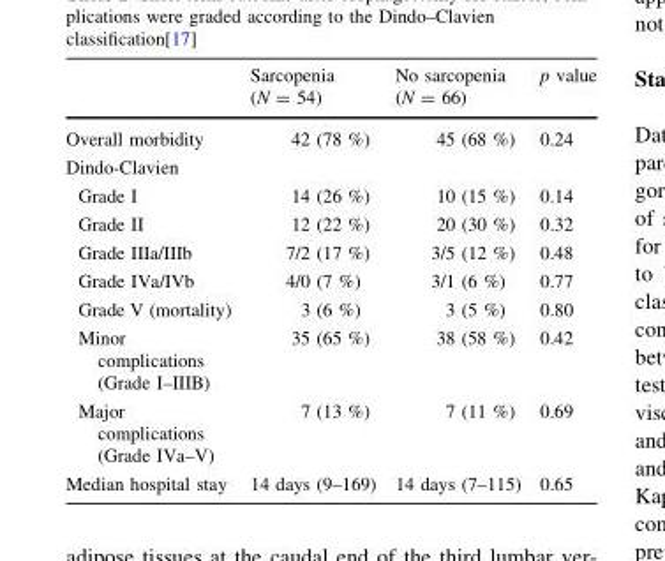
<table><thead><tr><td></td><td>Sarcopenia (N = 54)</td><td>No sarcopenia (N = 66)</td><td>p value</td></tr></thead><tbody><tr><td>Overall morbidity</td><td>42 (78 %)</td><td>45 (68 %)</td><td>0.24</td></tr><tr><td colspan="4">Dindo-Clavien</td></tr><tr><td>Grade I</td><td>14 (26 %)</td><td>10 (15 %)</td><td>0.14</td></tr><tr><td>Grade II</td><td>12 (22 %)</td><td>20 (30 %)</td><td>0.32</td></tr><tr><td>Grade IIIa/IIIb</td><td>7/2 (17 %)</td><td>3/5 (12 %)</td><td>0.48</td></tr><tr><td>Grade IVa/IVb</td><td>4/0 (7 %)</td><td>3/1 (6 %)</td><td>0.77</td></tr><tr><td>Grade V (mortality)</td><td>3 (6 %)</td><td>3 (5 %)</td><td>0.80</td></tr><tr><td>Minor complications (Grade I–IIIB)</td><td>35 (65 %)</td><td>38 (58 %)</td><td>0.42</td></tr><tr><td>Major complications (Grade IVa–V)</td><td>7 (13 %)</td><td>7 (11 %)</td><td>0.69</td></tr><tr><td>Median hospital stay</td><td>14 days (9–169)</td><td>14 days (7–115)</td><td>0.65</td></tr></tbody></table>